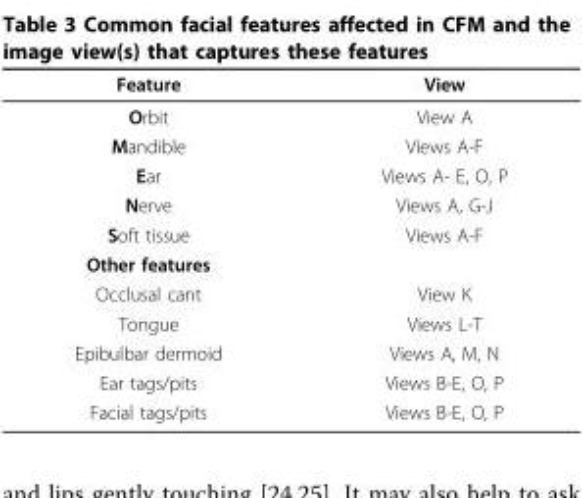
<table><thead><tr><td>Feature</td><td>View</td></tr></thead><tbody><tr><td>Orbit</td><td>View A</td></tr><tr><td>Mandible</td><td>Views A-F</td></tr><tr><td>Ear</td><td>Views A- E, O, P</td></tr><tr><td>Nerve</td><td>Views A, G-J</td></tr><tr><td>Soft tissue</td><td>Views A-F</td></tr><tr><td colspan="2">Other features</td></tr><tr><td>Occlusal cant</td><td>View K</td></tr><tr><td>Tongue</td><td>Views L-T</td></tr><tr><td>Epibulbar dermoid</td><td>Views A, M, N</td></tr><tr><td>Ear tags/pits</td><td>Views B-E, O, P</td></tr><tr><td>Facial tags/pits</td><td>Views B-E, O, P</td></tr></tbody></table>